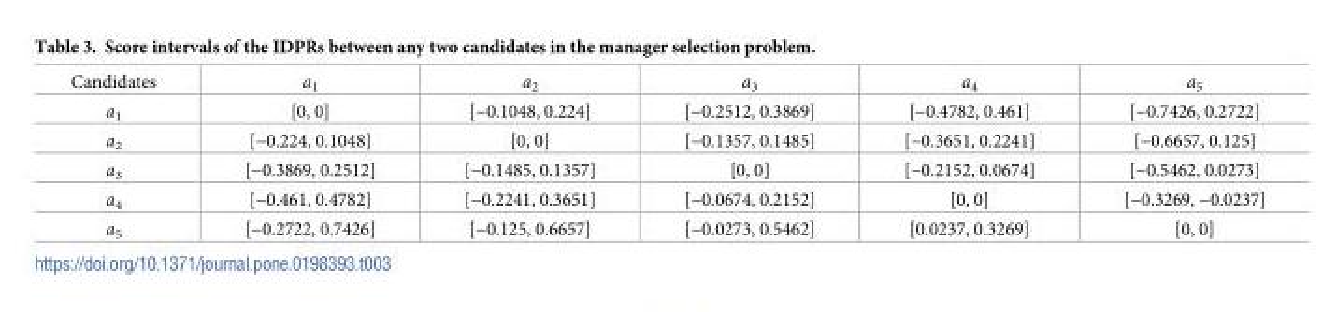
<table><tbody><tr><td>Candidates</td><td>a<sub>1</sub></td><td>a<sub>2</sub></td><td>a<sub>3</sub></td><td>a<sub>4</sub></td><td>a<sub>5</sub></td></tr><tr><td>a<sub>1</sub></td><td>[0, 0]</td><td>[−0.1048, 0.224]</td><td>[−0.2512, 0.3869]</td><td>[−0.4782, 0.461]</td><td>[−0.7426, 0.2722]</td></tr><tr><td>a<sub>2</sub></td><td>[−0.224, 0.1048]</td><td>[0, 0]</td><td>[−0.1357, 0.1485]</td><td>[−0.3651, 0.2241]</td><td>[−0.6657, 0.125]</td></tr><tr><td>a<sub>3</sub></td><td>[−0.3869, 0.2512]</td><td>[−0.1485, 0.1357]</td><td>[0, 0]</td><td>[−0.2152, 0.0674]</td><td>[−0.5462, 0.0273]</td></tr><tr><td>a<sub>4</sub></td><td>[−0.461, 0.4782]</td><td>[−0.2241, 0.3651]</td><td>[−0.0674, 0.2152]</td><td>[0, 0]</td><td>[−0.3269, −0.0237]</td></tr><tr><td>a<sub>5</sub></td><td>[−0.2722, 0.7426]</td><td>[−0.125, 0.6657]</td><td>[−0.0273, 0.5462]</td><td>[0.0237, 0.3269]</td><td>[0, 0]</td></tr></tbody></table>